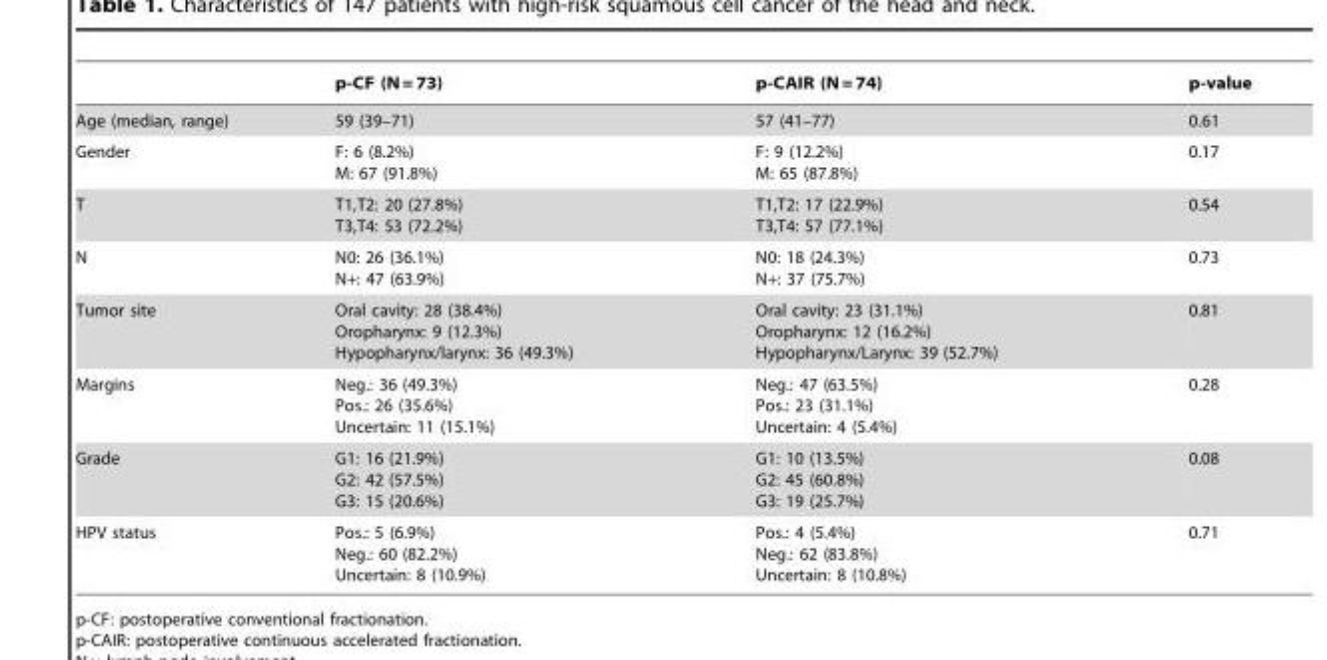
<table><thead><tr><td></td><td>p-CF (N = 73)</td><td>p-CAIR (N = 74)</td><td>p-value</td></tr></thead><tbody><tr><td>Age (median, range)</td><td>59 (39–71)</td><td>57 (41–77)</td><td>0.61</td></tr><tr><td>Gender</td><td>F: 6 (8.2%) M: 67 (91.8%)</td><td>F: 9 (12.2%) M: 65 (87.8%)</td><td>0.17</td></tr><tr><td>T</td><td>T1,T2: 20 (27.8%) T3,T4: 53 (72.2%)</td><td>T1,T2: 17 (22.9%) T3,T4: 57 (77.1%)</td><td>0.54</td></tr><tr><td>N</td><td>N0: 26 (36.1%) N+: 47 (63.9%)</td><td>N0: 18 (24.3%) N+: 37 (75.7%)</td><td>0.73</td></tr><tr><td>Tumor site</td><td>Oral cavity: 28 (38.4%) Oropharynx: 9 (12.3%) Hypopharynx/larynx: 36 (49.3%)</td><td>Oral cavity: 23 (31.1%) Oropharynx: 12 (16.2%) Hypopharynx/Larynx: 39 (52.7%)</td><td>0.81</td></tr><tr><td>Margins</td><td>Neg.: 36 (49.3%) Pos.: 26 (35.6%) Uncertain: 11 (15.1%)</td><td>Neg.: 47 (63.5%) Pos.: 23 (31.1%) Uncertain: 4 (5.4%)</td><td>0.28</td></tr><tr><td>Grade</td><td>G1: 16 (21.9%) G2: 42 (57.5%) G3: 15 (20.6%)</td><td>G1: 10 (13.5%) G2: 45 (60.8%) G3: 19 (25.7%)</td><td>0.08</td></tr><tr><td>HPV status</td><td>Pos.: 5 (6.9%) Neg.: 60 (82.2%) Uncertain: 8 (10.9%)</td><td>Pos.: 4 (5.4%) Neg.: 62 (83.8%) Uncertain: 8 (10.8%)</td><td>0.71</td></tr></tbody></table>